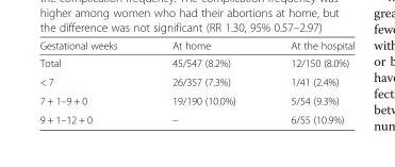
<table><thead><tr><td>Gestational weeks</td><td>At home</td><td>At the hospital</td></tr></thead><tbody><tr><td>Total</td><td>45/547 (8.2%)</td><td>12/150 (8.0%)</td></tr><tr><td>&lt; 7</td><td>26/357 (7.3%)</td><td>1/41 (2.4%)</td></tr><tr><td>7 + 1–9 + 0</td><td>19/190 (10.0%)</td><td>5/54 (9.3%)</td></tr><tr><td>9 + 1–12 + 0</td><td>–</td><td>6/55 (10.9%)</td></tr></tbody></table>